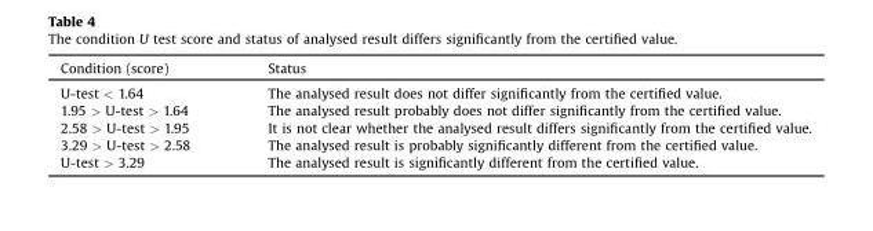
<table><thead><tr><td>Condition (score)</td><td>Status</td></tr></thead><tbody><tr><td>U-test &lt; 1.64</td><td>The analysed result does not differ significantly from the certified value.</td></tr><tr><td>1.95 &gt; U-test &gt; 1.64</td><td>The analysed result probably does not differ significantly from the certified value.</td></tr><tr><td>2.58 &gt; U-test &gt; 1.95</td><td>It is not clear whether the analysed result differs significantly from the certified value.</td></tr><tr><td>3.29 &gt; U-test &gt; 2.58</td><td>The analysed result is probably significantly different from the certified value.</td></tr><tr><td>U-test &gt; 3.29</td><td>The analysed result is significantly different from the certified value.</td></tr></tbody></table>